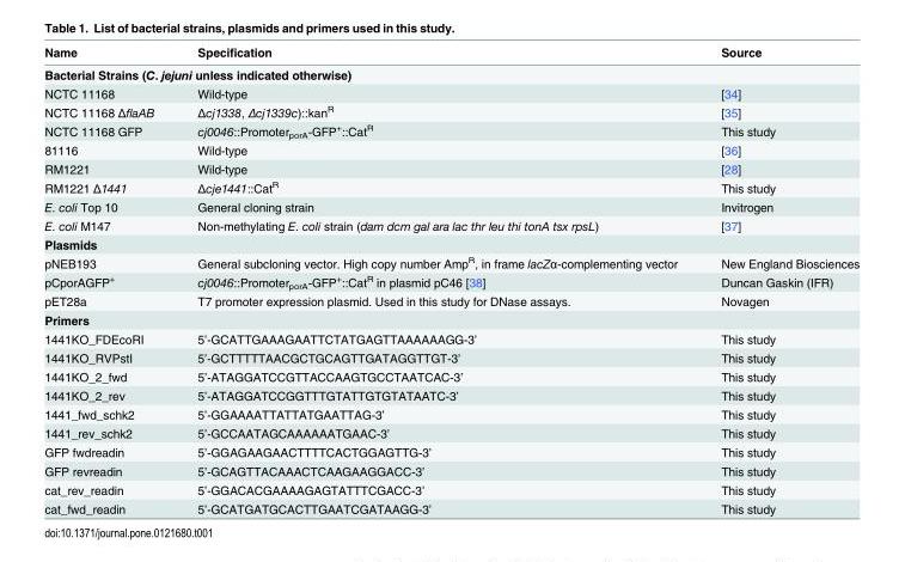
<table><thead><tr><td>Name</td><td>Specification</td><td>Source</td></tr></thead><tbody><tr><td colspan="3">Bacterial Strains (C. jejuni unless indicated otherwise)</td></tr><tr><td>NCTC 11168</td><td>Wild-type</td><td>[34]</td></tr><tr><td>NCTC 11168 ΔflaAB</td><td>Δcj1338, Δcj1339c)::kan<sup>R</sup></td><td>[35]</td></tr><tr><td>NCTC 11168 GFP</td><td>cj0046::Promoter<sub>porA</sub>-GFP<sup>+</sup>::Cat<sup>R</sup></td><td>This study</td></tr><tr><td>81116</td><td>Wild-type</td><td>[36]</td></tr><tr><td>RM1221</td><td>Wild-type</td><td>[28]</td></tr><tr><td>RM1221 Δ1441</td><td>Δcje1441::Cat<sup>R</sup></td><td>This study</td></tr><tr><td>E. coli Top 10</td><td>General cloning strain</td><td>Invitrogen</td></tr><tr><td>E. coli M147</td><td>Non-methylating E. coli strain (dam dcm gal ara lac thr leu thi tonA tsx rpsL)</td><td>[37]</td></tr><tr><td colspan="3">Plasmids</td></tr><tr><td>pNEB193</td><td>General subcloning vector. High copy number Amp<sup>R</sup>, in frame lacZα-complementing vector</td><td>New England Biosciences</td></tr><tr><td>pCporAGFP<sup>+</sup></td><td>cj0046::Promoter<sub>porA</sub>-GFP<sup>+</sup>::Cat<sup>R</sup> in plasmid pC46 [38]</td><td>Duncan Gaskin (IFR)</td></tr><tr><td>pET28a</td><td>T7 promoter expression plasmid. Used in this study for DNase assays.</td><td>Novagen</td></tr><tr><td colspan="3">Primers</td></tr><tr><td>1441KO_FDEcoRI</td><td>5’-GCATTGAAAGAATTCTATGAGTTAAAAAAGG-3’</td><td>This study</td></tr><tr><td>1441KO_RVPstI</td><td>5’-GCTTTTTAACGCTGCAGTTGATAGGTTGT-3’</td><td>This study</td></tr><tr><td>1441KO_2_fwd</td><td>5’-ATAGGATCCGTTACCAAGTGCCTAATCAC-3’</td><td>This study</td></tr><tr><td>1441KO_2_rev</td><td>5’-ATAGGATCCGGTTTGTATTGTGTATAATC-3’</td><td>This study</td></tr><tr><td>1441_fwd_schk2</td><td>5’-GGAAAATTATTATGAATTAG-3’</td><td>This study</td></tr><tr><td>1441_rev_schk2</td><td>5’-GCCAATAGCAAAAAATGAAC-3’</td><td>This study</td></tr><tr><td>GFP fwdreadin</td><td>5’-GGAGAAGAACTTTTCACTGGAGTTG-3’</td><td>This study</td></tr><tr><td>GFP revreadin</td><td>5’-GCAGTTACAAACTCAAGAAGGACC-3’</td><td>This study</td></tr><tr><td>cat_rev_readin</td><td>5’-GGACACGAAAAGAGTATTTCGACC-3’</td><td>This study</td></tr><tr><td>cat_fwd_readin</td><td>5’-GCATGATGCACTTGAATCGATAAGG-3’</td><td>This study</td></tr></tbody></table>